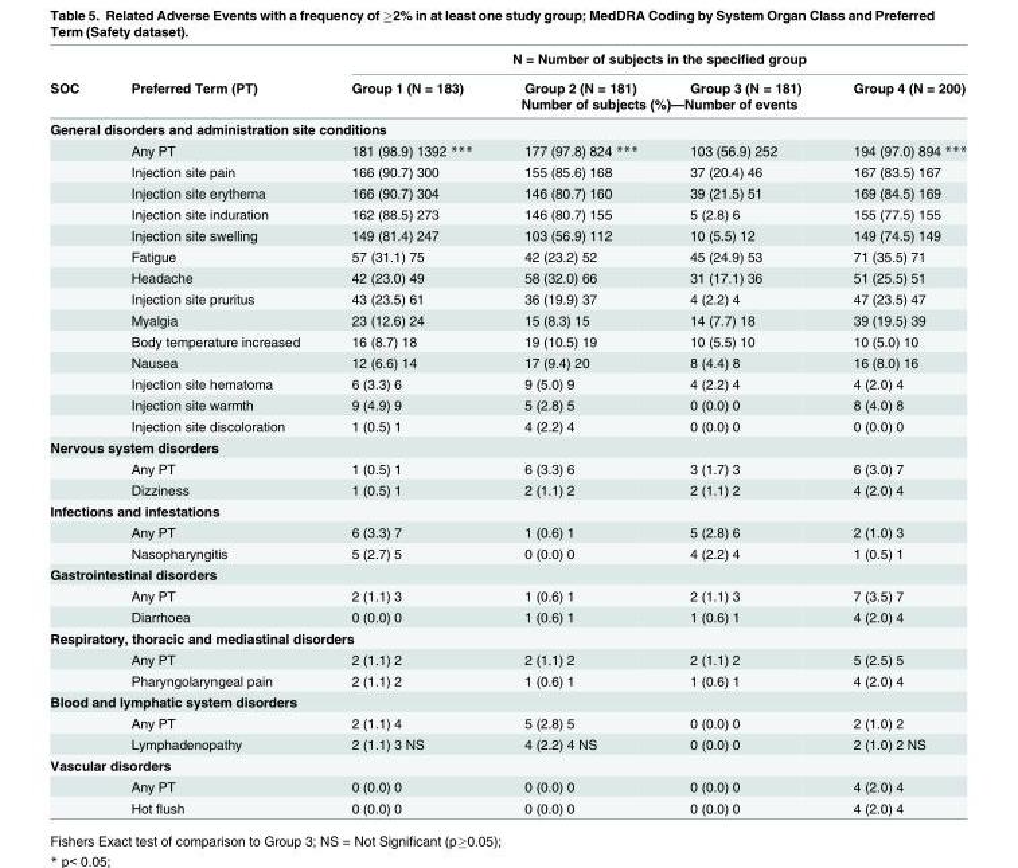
<table><thead><tr><td rowspan="3">SOC</td><td rowspan="3">Preferred Term (PT)</td><td colspan="4">N = Number of subjects in the specified group</td></tr><tr><td>Group 1 (N = 183)</td><td>Group 2 (N = 181)</td><td>Group 3 (N = 181)</td><td>Group 4 (N = 200)</td></tr><tr><td colspan="4">Number of subjects (%)—Number of events</td></tr></thead><tbody><tr><td colspan="6">General disorders and administration site conditions</td></tr><tr><td></td><td>Any PT</td><td>181 (98.9) 1392 ***</td><td>177 (97.8) 824 ***</td><td>103 (56.9) 252</td><td>194 (97.0) 894 ***</td></tr><tr><td></td><td>Injection site pain</td><td>166 (90.7) 300</td><td>155 (85.6) 168</td><td>37 (20.4) 46</td><td>167 (83.5) 167</td></tr><tr><td></td><td>Injection site erythema</td><td>166 (90.7) 304</td><td>146 (80.7) 160</td><td>39 (21.5) 51</td><td>169 (84.5) 169</td></tr><tr><td></td><td>Injection site induration</td><td>162 (88.5) 273</td><td>146 (80.7) 155</td><td>5 (2.8) 6</td><td>155 (77.5) 155</td></tr><tr><td></td><td>Injection site swelling</td><td>149 (81.4) 247</td><td>103 (56.9) 112</td><td>10 (5.5) 12</td><td>149 (74.5) 149</td></tr><tr><td></td><td>Fatigue</td><td>57 (31.1) 75</td><td>42 (23.2) 52</td><td>45 (24.9) 53</td><td>71 (35.5) 71</td></tr><tr><td></td><td>Headache</td><td>42 (23.0) 49</td><td>58 (32.0) 66</td><td>31 (17.1) 36</td><td>51 (25.5) 51</td></tr><tr><td></td><td>Injection site pruritus</td><td>43 (23.5) 61</td><td>36 (19.9) 37</td><td>4 (2.2) 4</td><td>47 (23.5) 47</td></tr><tr><td></td><td>Myalgia</td><td>23 (12.6) 24</td><td>15 (8.3) 15</td><td>14 (7.7) 18</td><td>39 (19.5) 39</td></tr><tr><td></td><td>Body temperature increased</td><td>16 (8.7) 18</td><td>19 (10.5) 19</td><td>10 (5.5) 10</td><td>10 (5.0) 10</td></tr><tr><td></td><td>Nausea</td><td>12 (6.6) 14</td><td>17 (9.4) 20</td><td>8 (4.4) 8</td><td>16 (8.0) 16</td></tr><tr><td></td><td>Injection site hematoma</td><td>6 (3.3) 6</td><td>9 (5.0) 9</td><td>4 (2.2) 4</td><td>4 (2.0) 4</td></tr><tr><td></td><td>Injection site warmth</td><td>9 (4.9) 9</td><td>5 (2.8) 5</td><td>0 (0.0) 0</td><td>8 (4.0) 8</td></tr><tr><td></td><td>Injection site discoloration</td><td>1 (0.5) 1</td><td>4 (2.2) 4</td><td>0 (0.0) 0</td><td>0 (0.0) 0</td></tr><tr><td colspan="6">Nervous system disorders</td></tr><tr><td></td><td>Any PT</td><td>1 (0.5) 1</td><td>6 (3.3) 6</td><td>3 (1.7) 3</td><td>6 (3.0) 7</td></tr><tr><td></td><td>Dizziness</td><td>1 (0.5) 1</td><td>2 (1.1) 2</td><td>2 (1.1) 2</td><td>4 (2.0) 4</td></tr><tr><td colspan="6">Infections and infestations</td></tr><tr><td></td><td>Any PT</td><td>6 (3.3) 7</td><td>1 (0.6) 1</td><td>5 (2.8) 6</td><td>2 (1.0) 3</td></tr><tr><td></td><td>Nasopharyngitis</td><td>5 (2.7) 5</td><td>0 (0.0) 0</td><td>4 (2.2) 4</td><td>1 (0.5) 1</td></tr><tr><td colspan="6">Gastrointestinal disorders</td></tr><tr><td></td><td>Any PT</td><td>2 (1.1) 3</td><td>1 (0.6) 1</td><td>2 (1.1) 3</td><td>7 (3.5) 7</td></tr><tr><td></td><td>Diarrhoea</td><td>0 (0.0) 0</td><td>1 (0.6) 1</td><td>1 (0.6) 1</td><td>4 (2.0) 4</td></tr><tr><td colspan="6">Respiratory, thoracic and mediastinal disorders</td></tr><tr><td></td><td>Any PT</td><td>2 (1.1) 2</td><td>2 (1.1) 2</td><td>2 (1.1) 2</td><td>5 (2.5) 5</td></tr><tr><td></td><td>Pharyngolaryngeal pain</td><td>2 (1.1) 2</td><td>1 (0.6) 1</td><td>1 (0.6) 1</td><td>4 (2.0) 4</td></tr><tr><td colspan="6">Blood and lymphatic system disorders</td></tr><tr><td></td><td>Any PT</td><td>2 (1.1) 4</td><td>5 (2.8) 5</td><td>0 (0.0) 0</td><td>2 (1.0) 2</td></tr><tr><td></td><td>Lymphadenopathy</td><td>2 (1.1) 3 NS</td><td>4 (2.2) 4 NS</td><td>0 (0.0) 0</td><td>2 (1.0) 2 NS</td></tr><tr><td colspan="6">Vascular disorders</td></tr><tr><td></td><td>Any PT</td><td>0 (0.0) 0</td><td>0 (0.0) 0</td><td>0 (0.0) 0</td><td>4 (2.0) 4</td></tr><tr><td></td><td>Hot flush</td><td>0 (0.0) 0</td><td>0 (0.0) 0</td><td>0 (0.0) 0</td><td>4 (2.0) 4</td></tr></tbody></table>